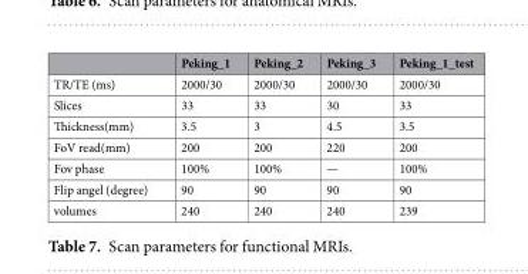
<table><thead><tr><td></td><td>Peking_1</td><td>Peking_2</td><td>Peking_3</td><td>Peking_1_test</td></tr></thead><tbody><tr><td>TR/TE (ms)</td><td>2000/30</td><td>2000/30</td><td>2000/30</td><td>2000/30</td></tr><tr><td>Slices</td><td>33</td><td>33</td><td>30</td><td>33</td></tr><tr><td>Thickness(mm)</td><td>3.5</td><td>3</td><td>4.5</td><td>3.5</td></tr><tr><td>FoV read(mm)</td><td>200</td><td>200</td><td>220</td><td>200</td></tr><tr><td>Fov phase</td><td>100%</td><td>100%</td><td>—</td><td>100%</td></tr><tr><td>Flip angel (degree)</td><td>90</td><td>90</td><td>90</td><td>90</td></tr><tr><td>volumes</td><td>240</td><td>240</td><td>240</td><td>239</td></tr></tbody></table>